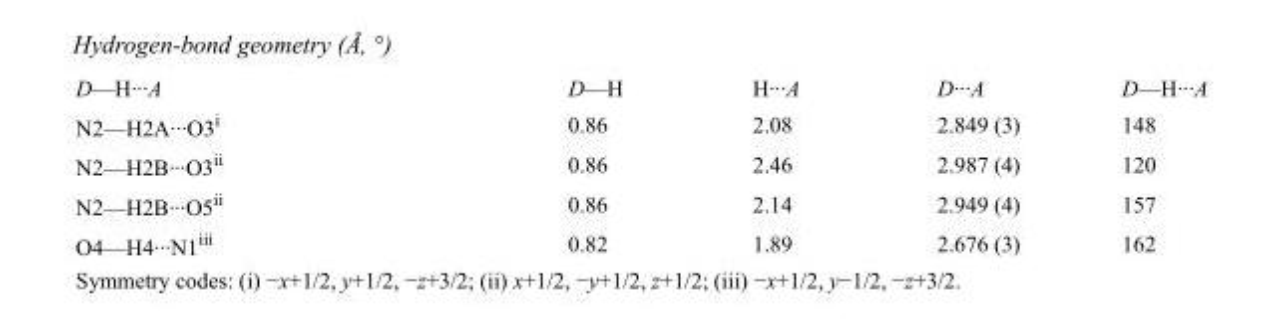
<table><tbody><tr><td>D—H···A</td><td>D—H</td><td>H···A</td><td>D···A</td><td>D—H···A</td></tr><tr><td>N2—H2A···O3<sup>i</sup></td><td>0.86</td><td>2.08</td><td>2.849 (3)</td><td>148</td></tr><tr><td>N2—H2B···O3<sup>ii</sup></td><td>0.86</td><td>2.46</td><td>2.987 (4)</td><td>120</td></tr><tr><td>N2—H2B···O5<sup>ii</sup></td><td>0.86</td><td>2.14</td><td>2.949 (4)</td><td>157</td></tr><tr><td>O4—H4···N1<sup>iii</sup></td><td>0.82</td><td>1.89</td><td>2.676 (3)</td><td>162</td></tr></tbody></table>